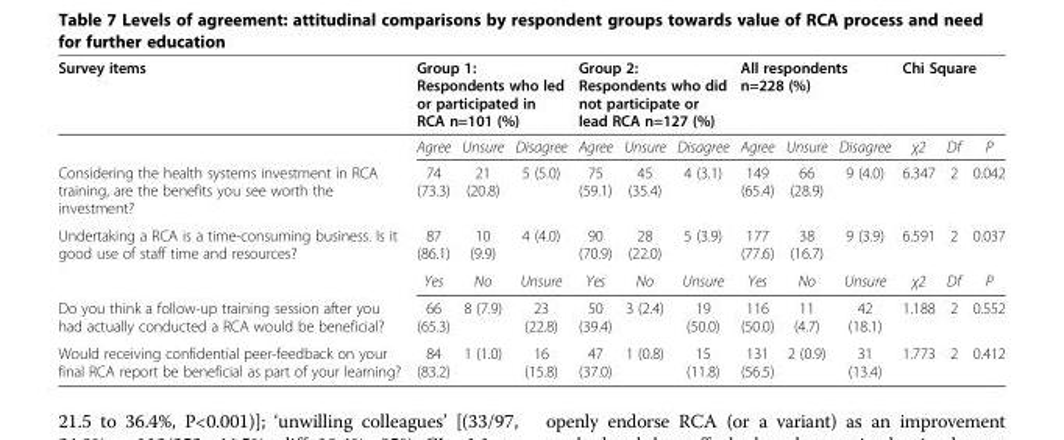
<table><thead><tr><td rowspan="2">Survey items</td><td colspan="3">Group 1: Respondents who led or participated in RCA n=101 (%)</td><td colspan="3">Group 2: Respondents who did not participate or lead RCA n=127 (%)</td><td colspan="3">All respondents n=228 (%)</td><td colspan="3">Chi Square</td></tr><tr><td>Agree</td><td>Unsure</td><td>Disagree</td><td>Agree</td><td>Unsure</td><td>Disagree</td><td>Agree</td><td>Unsure</td><td>Disagree</td><td>χ2</td><td>Df</td><td>P</td></tr></thead><tbody><tr><td>Considering the health systems investment in RCA training, are the benefits you see worth the investment?</td><td>74 (73.3)</td><td>21 (20.8)</td><td>5 (5.0)</td><td>75 (59.1)</td><td>45 (35.4)</td><td>4 (3.1)</td><td>149 (65.4)</td><td>66 (28.9)</td><td>9 (4.0)</td><td>6.347</td><td>2</td><td>0.042</td></tr><tr><td rowspan="2">Undertaking a RCA is a time-consuming business. Is it good use of staff time and resources?</td><td>87 (86.1)</td><td>10 (9.9)</td><td>4 (4.0)</td><td>90 (70.9)</td><td>28 (22.0)</td><td>5 (3.9)</td><td>177 (77.6)</td><td>38 (16.7)</td><td>9 (3.9)</td><td>6.591</td><td>2</td><td>0.037</td></tr><tr><td>Yes</td><td>No</td><td>Unsure</td><td>Yes</td><td>No</td><td>Unsure</td><td>Yes</td><td>No</td><td>Unsure</td><td>χ2</td><td>Df</td><td>P</td></tr><tr><td>Do you think a follow-up training session after you had actually conducted a RCA would be beneficial?</td><td>66 (65.3)</td><td>8 (7.9)</td><td>23 (22.8)</td><td>50 (39.4)</td><td>3 (2.4)</td><td>19 (50.0)</td><td>116 (50.0)</td><td>11 (4.7)</td><td>42 (18.1)</td><td>1.188</td><td>2</td><td>0.552</td></tr><tr><td>Would receiving confidential peer-feedback on your final RCA report be beneficial as part of your learning?</td><td>84 (83.2)</td><td>1 (1.0)</td><td>16 (15.8)</td><td>47 (37.0)</td><td>1 (0.8)</td><td>15 (11.8)</td><td>131 (56.5)</td><td>2 (0.9)</td><td>31 (13.4)</td><td>1.773</td><td>2</td><td>0.412</td></tr></tbody></table>